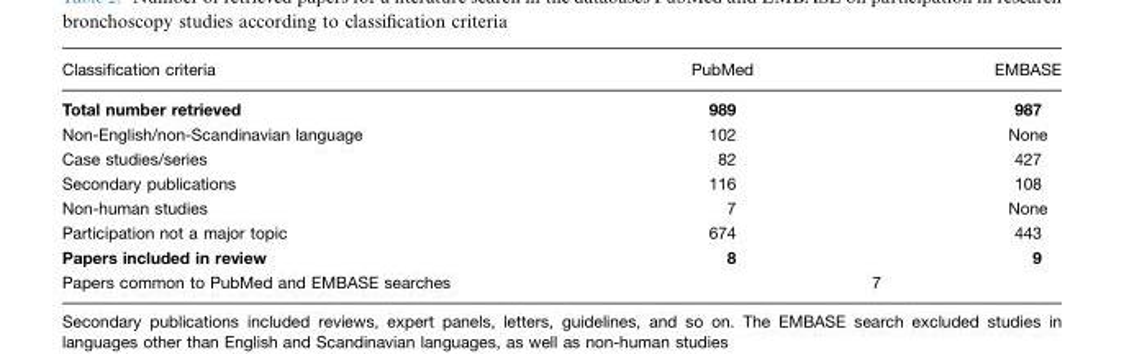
<table><thead><tr><td>Classification criteria</td><td>PubMed</td><td>EMBASE</td></tr></thead><tbody><tr><td>Total number retrieved</td><td>989</td><td>987</td></tr><tr><td>Non-English/non-Scandinavian language</td><td>102</td><td>None</td></tr><tr><td>Case studies/series</td><td>82</td><td>427</td></tr><tr><td>Secondary publications</td><td>116</td><td>108</td></tr><tr><td>Non-human studies</td><td>7</td><td>None</td></tr><tr><td>Participation not a major topic</td><td>674</td><td>443</td></tr><tr><td>Papers included in review</td><td>8</td><td>9</td></tr><tr><td>Papers common to PubMed and EMBASE searches</td><td colspan="2">7</td></tr></tbody></table>